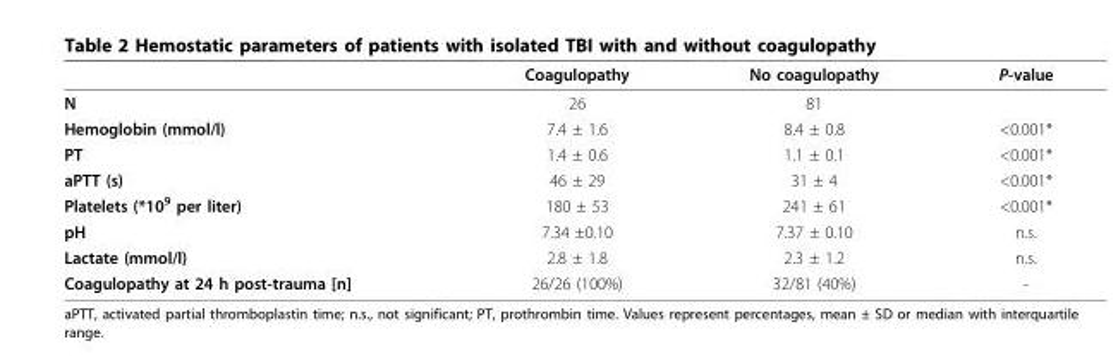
<table><thead><tr><td></td><td>Coagulopathy</td><td>No coagulopathy</td><td>P-value</td></tr></thead><tbody><tr><td>N</td><td>26</td><td>81</td><td></td></tr><tr><td>Hemoglobin (mmol/l)</td><td>7.4 ± 1.6</td><td>8.4 ± 0.8</td><td>&lt;0.001*</td></tr><tr><td>PT</td><td>1.4 ± 0.6</td><td>1.1 ± 0.1</td><td>&lt;0.001*</td></tr><tr><td>aPTT (s)</td><td>46 ± 29</td><td>31 ± 4</td><td>&lt;0.001*</td></tr><tr><td>Platelets (*10<sup>9</sup> per liter)</td><td>180 ± 53</td><td>241 ± 61</td><td>&lt;0.001*</td></tr><tr><td>pH</td><td>7.34 ±0.10</td><td>7.37 ± 0.10</td><td>n.s.</td></tr><tr><td>Lactate (mmol/l)</td><td>2.8 ± 1.8</td><td>2.3 ± 1.2</td><td>n.s.</td></tr><tr><td>Coagulopathy at 24 h post-trauma [n]</td><td>26/26 (100%)</td><td>32/81 (40%)</td><td>-</td></tr></tbody></table>